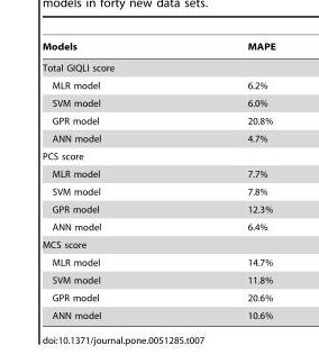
<table><thead><tr><td>Models</td><td>MAPE</td></tr></thead><tbody><tr><td colspan="2">Total GIQLI score</td></tr><tr><td>MLR model</td><td>6.2%</td></tr><tr><td>SVM model</td><td>6.0%</td></tr><tr><td>GPR model</td><td>20.8%</td></tr><tr><td>ANN model</td><td>4.7%</td></tr><tr><td colspan="2">PCS score</td></tr><tr><td>MLR model</td><td>7.7%</td></tr><tr><td>SVM model</td><td>7.8%</td></tr><tr><td>GPR model</td><td>12.3%</td></tr><tr><td>ANN model</td><td>6.4%</td></tr><tr><td colspan="2">MCS score</td></tr><tr><td>MLR model</td><td>14.7%</td></tr><tr><td>SVM model</td><td>11.8%</td></tr><tr><td>GPR model</td><td>20.6%</td></tr><tr><td>ANN model</td><td>10.6%</td></tr></tbody></table>